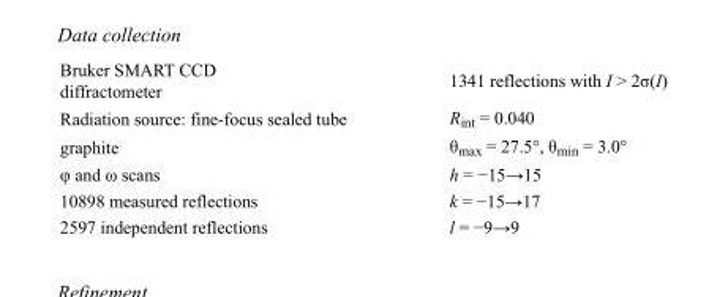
<table><tbody><tr><td>Bruker SMART CCD diffractometer</td><td>1341 reflections with I &gt; 2σ(I)</td></tr><tr><td>Radiation source: fine-focus sealed tube</td><td>R<sub>int</sub> = 0.040</td></tr><tr><td>graphite</td><td>θ<sub>max</sub> = 27.5°, θ<sub>min</sub> = 3.0°</td></tr><tr><td>φ and ω scans</td><td>h = −15→15</td></tr><tr><td>10898 measured reflections</td><td>k = −15→17</td></tr><tr><td>2597 independent reflections</td><td>l = −9→9</td></tr></tbody></table>